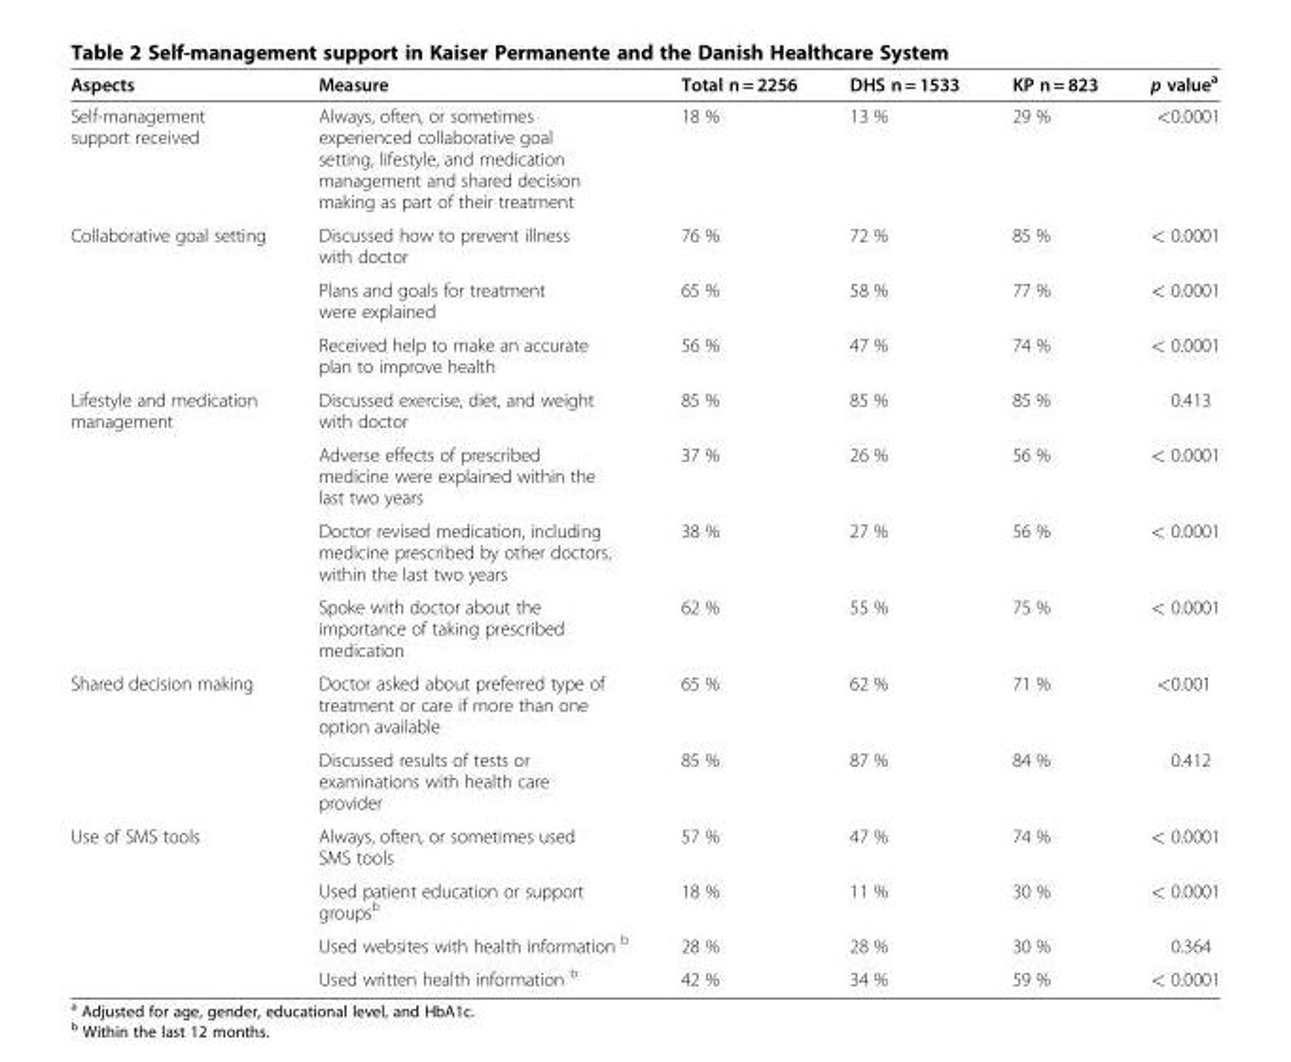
<table><thead><tr><td>Aspects</td><td>Measure</td><td>Total n = 2256</td><td>DHS n = 1533</td><td>KP n = 823</td><td>p value<sup>a</sup></td></tr></thead><tbody><tr><td>Self-management support received</td><td>Always, often, or sometimes experienced collaborative goal setting, lifestyle, and medication management and shared decision making as part of their treatment</td><td>18 %</td><td>13 %</td><td>29 %</td><td>&lt;0.0001</td></tr><tr><td rowspan="3">Collaborative goal setting</td><td>Discussed how to prevent illness with doctor</td><td>76 %</td><td>72 %</td><td>85 %</td><td>&lt; 0.0001</td></tr><tr><td>Plans and goals for treatment were explained</td><td>65 %</td><td>58 %</td><td>77 %</td><td>&lt; 0.0001</td></tr><tr><td>Received help to make an accurate plan to improve health</td><td>56 %</td><td>47 %</td><td>74 %</td><td>&lt; 0.0001</td></tr><tr><td rowspan="4">Lifestyle and medication management</td><td>Discussed exercise, diet, and weight with doctor</td><td>85 %</td><td>85 %</td><td>85 %</td><td>0.413</td></tr><tr><td>Adverse effects of prescribed medicine were explained within the last two years</td><td>37 %</td><td>26 %</td><td>56 %</td><td>&lt; 0.0001</td></tr><tr><td>Doctor revised medication, including medicine prescribed by other doctors, within the last two years</td><td>38 %</td><td>27 %</td><td>56 %</td><td>&lt; 0.0001</td></tr><tr><td>Spoke with doctor about the importance of taking prescribed medication</td><td>62 %</td><td>55 %</td><td>75 %</td><td>&lt; 0.0001</td></tr><tr><td rowspan="2">Shared decision making</td><td>Doctor asked about preferred type of treatment or care if more than one option available</td><td>65 %</td><td>62 %</td><td>71 %</td><td>&lt;0.001</td></tr><tr><td>Discussed results of tests or examinations with health care provider</td><td>85 %</td><td>87 %</td><td>84 %</td><td>0.412</td></tr><tr><td rowspan="4">Use of SMS tools</td><td>Always, often, or sometimes used SMS tools</td><td>57 %</td><td>47 %</td><td>74 %</td><td>&lt; 0.0001</td></tr><tr><td>Used patient education or support groups<sup>b</sup></td><td>18 %</td><td>11 %</td><td>30 %</td><td>&lt; 0.0001</td></tr><tr><td>Used websites with health information <sup>b</sup></td><td>28 %</td><td>28 %</td><td>30 %</td><td>0.364</td></tr><tr><td>Used written health information <sup>b</sup></td><td>42 %</td><td>34 %</td><td>59 %</td><td>&lt; 0.0001</td></tr></tbody></table>